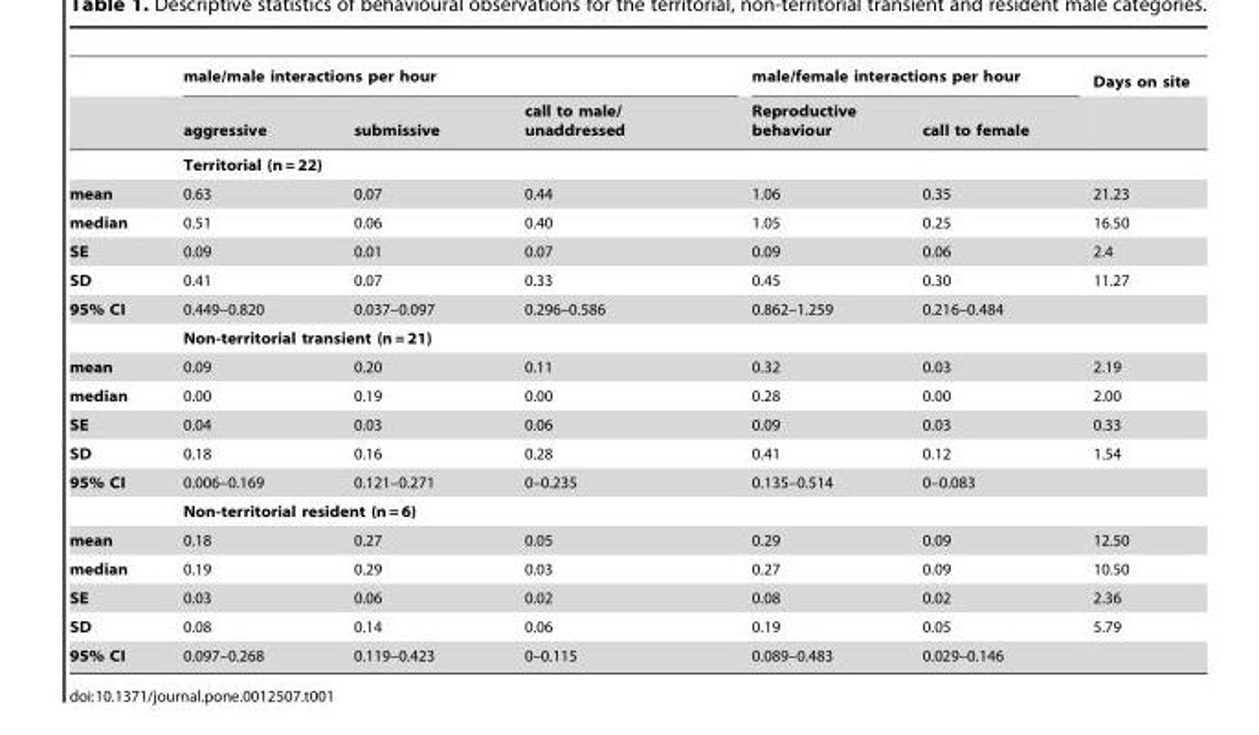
<table><thead><tr><td rowspan="2"></td><td colspan="3">male/male interactions per hour</td><td colspan="2">male/female interactions per hour</td><td rowspan="2">Days on site</td></tr><tr><td>aggressive</td><td>submissive</td><td>call to male/ unaddressed</td><td>Reproductive behaviour</td><td>call to female</td></tr></thead><tbody><tr><td></td><td colspan="6">Territorial (n = 22)</td></tr><tr><td>mean</td><td>0.63</td><td>0.07</td><td>0.44</td><td>1.06</td><td>0.35</td><td>21.23</td></tr><tr><td>median</td><td>0.51</td><td>0.06</td><td>0.40</td><td>1.05</td><td>0.25</td><td>16.50</td></tr><tr><td>SE</td><td>0.09</td><td>0.01</td><td>0.07</td><td>0.09</td><td>0.06</td><td>2.4</td></tr><tr><td>SD</td><td>0.41</td><td>0.07</td><td>0.33</td><td>0.45</td><td>0.30</td><td>11.27</td></tr><tr><td rowspan="2">95% CI</td><td>0.449–0.820</td><td>0.037–0.097</td><td>0.296–0.586</td><td>0.862–1.259</td><td>0.216–0.484</td><td></td></tr><tr><td colspan="6">Non-territorial transient (n = 21)</td></tr><tr><td>mean</td><td>0.09</td><td>0.20</td><td>0.11</td><td>0.32</td><td>0.03</td><td>2.19</td></tr><tr><td>median</td><td>0.00</td><td>0.19</td><td>0.00</td><td>0.28</td><td>0.00</td><td>2.00</td></tr><tr><td>SE</td><td>0.04</td><td>0.03</td><td>0.06</td><td>0.09</td><td>0.03</td><td>0.33</td></tr><tr><td>SD</td><td>0.18</td><td>0.16</td><td>0.28</td><td>0.41</td><td>0.12</td><td>1.54</td></tr><tr><td rowspan="2">95% CI</td><td>0.006–0.169</td><td>0.121–0.271</td><td>0–0.235</td><td>0.135–0.514</td><td>0–0.083</td><td></td></tr><tr><td colspan="6">Non-territorial resident (n = 6)</td></tr><tr><td>mean</td><td>0.18</td><td>0.27</td><td>0.05</td><td>0.29</td><td>0.09</td><td>12.50</td></tr><tr><td>median</td><td>0.19</td><td>0.29</td><td>0.03</td><td>0.27</td><td>0.09</td><td>10.50</td></tr><tr><td>SE</td><td>0.03</td><td>0.06</td><td>0.02</td><td>0.08</td><td>0.02</td><td>2.36</td></tr><tr><td>SD</td><td>0.08</td><td>0.14</td><td>0.06</td><td>0.19</td><td>0.05</td><td>5.79</td></tr><tr><td>95% CI</td><td>0.097–0.268</td><td>0.119–0.423</td><td>0–0.115</td><td>0.089–0.483</td><td>0.029–0.146</td><td></td></tr></tbody></table>